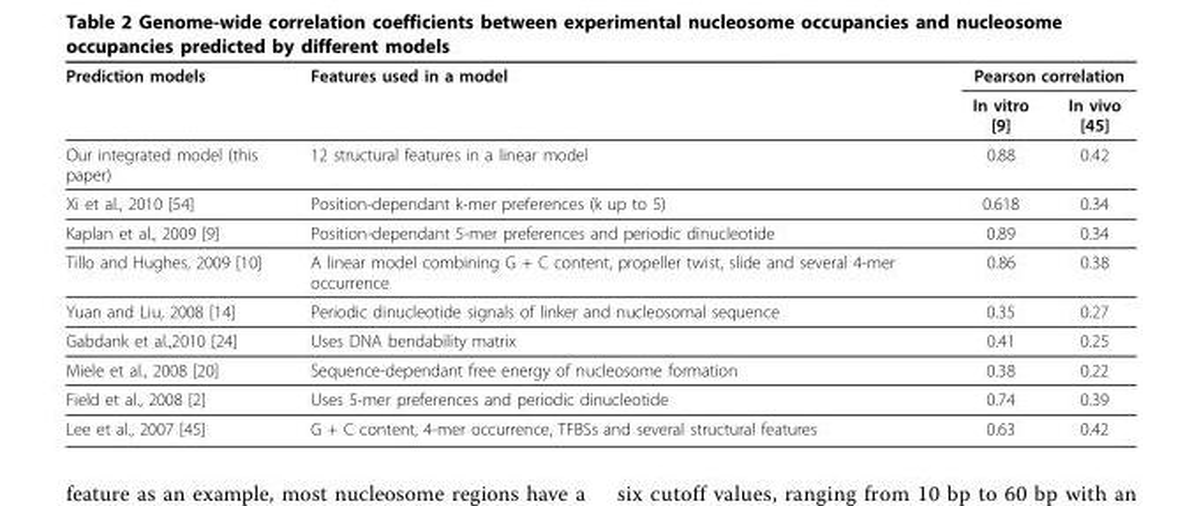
<table><thead><tr><td rowspan="2">Prediction models</td><td rowspan="2">Features used in a model</td><td colspan="2">Pearson correlation</td></tr><tr><td>In vitro [9]</td><td>In vivo [45]</td></tr></thead><tbody><tr><td>Our integrated model (this paper)</td><td>12 structural features in a linear model</td><td>0.88</td><td>0.42</td></tr><tr><td>Xi et al., 2010 [54]</td><td>Position-dependant k-mer preferences (k up to 5)</td><td>0.618</td><td>0.34</td></tr><tr><td>Kaplan et al., 2009 [9]</td><td>Position-dependant 5-mer preferences and periodic dinucleotide</td><td>0.89</td><td>0.34</td></tr><tr><td>Tillo and Hughes, 2009 [10]</td><td>A linear model combining G + C content, propeller twist, slide and several 4-mer occurrence</td><td>0.86</td><td>0.38</td></tr><tr><td>Yuan and Liu, 2008 [14]</td><td>Periodic dinucleotide signals of linker and nucleosomal sequence</td><td>0.35</td><td>0.27</td></tr><tr><td>Gabdank et al.,2010 [24]</td><td>Uses DNA bendability matrix</td><td>0.41</td><td>0.25</td></tr><tr><td>Miele et al., 2008 [20]</td><td>Sequence-dependant free energy of nucleosome formation</td><td>0.38</td><td>0.22</td></tr><tr><td>Field et al., 2008 [2]</td><td>Uses 5-mer preferences and periodic dinucleotide</td><td>0.74</td><td>0.39</td></tr><tr><td>Lee et al., 2007 [45]</td><td>G + C content, 4-mer occurrence, TFBSs and several structural features</td><td>0.63</td><td>0.42</td></tr></tbody></table>